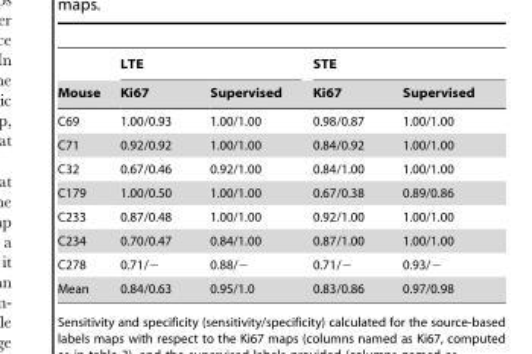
<table><thead><tr><td rowspan="2">Mouse</td><td colspan="2">LTE</td><td colspan="2">STE</td></tr><tr><td>Ki67</td><td>Supervised</td><td>Ki67</td><td>Supervised</td></tr></thead><tbody><tr><td>C69</td><td>1.00/0.93</td><td>1.00/1.00</td><td>0.98/0.87</td><td>1.00/1.00</td></tr><tr><td>C71</td><td>0.92/0.92</td><td>1.00/1.00</td><td>0.84/0.92</td><td>1.00/1.00</td></tr><tr><td>C32</td><td>0.67/0.46</td><td>0.92/1.00</td><td>0.84/1.00</td><td>1.00/1.00</td></tr><tr><td>C179</td><td>1.00/0.50</td><td>1.00/1.00</td><td>0.67/0.38</td><td>0.89/0.86</td></tr><tr><td>C233</td><td>0.87/0.48</td><td>1.00/1.00</td><td>0.92/1.00</td><td>1.00/1.00</td></tr><tr><td>C234</td><td>0.70/0.47</td><td>0.84/1.00</td><td>0.87/1.00</td><td>1.00/1.00</td></tr><tr><td>C278</td><td>0.71/−</td><td>0.88/−</td><td>0.71/−</td><td>0.93/−</td></tr><tr><td>Mean</td><td>0.84/0.63</td><td>0.95/1.0</td><td>0.83/0.86</td><td>0.97/0.98</td></tr></tbody></table>